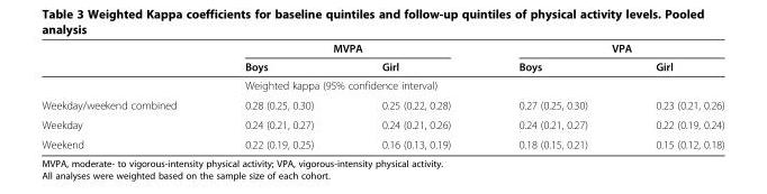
<table><thead><tr><td rowspan="2"></td><td colspan="2">MVPA</td><td colspan="2">VPA</td></tr><tr><td>Boys</td><td>Girl</td><td>Boys</td><td>Girl</td></tr></thead><tbody><tr><td></td><td colspan="4">Weighted kappa (95% confidence interval)</td></tr><tr><td>Weekday/weekend combined</td><td>0.28 (0.25, 0.30)</td><td>0.25 (0.22, 0.28)</td><td>0.27 (0.25, 0.30)</td><td>0.23 (0.21, 0.26)</td></tr><tr><td>Weekday</td><td>0.24 (0.21, 0.27)</td><td>0.24 (0.21, 0.26)</td><td>0.24 (0.21, 0.27)</td><td>0.22 (0.19, 0.24)</td></tr><tr><td>Weekend</td><td>0.22 (0.19, 0.25)</td><td>0.16 (0.13, 0.19)</td><td>0.18 (0.15, 0.21)</td><td>0.15 (0.12, 0.18)</td></tr></tbody></table>